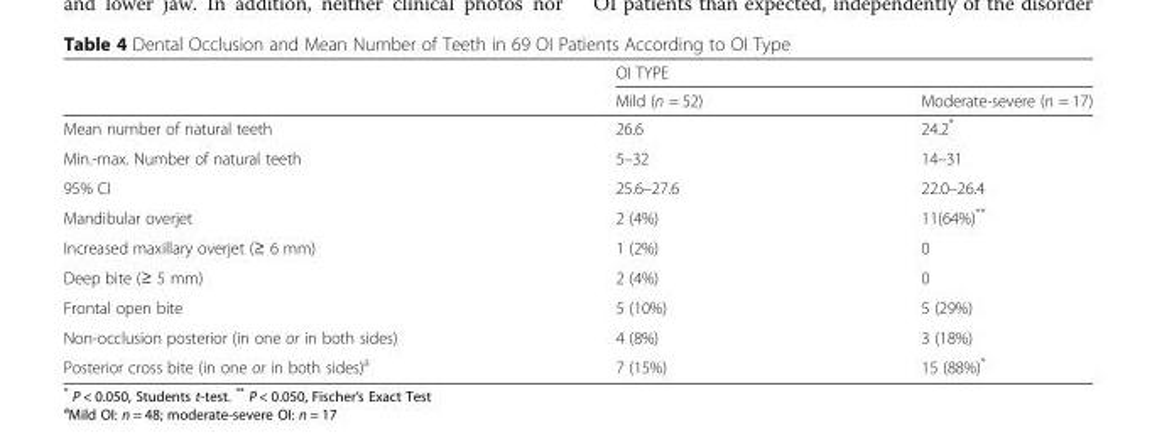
<table><thead><tr><td rowspan="2"></td><td colspan="2">OI TYPE</td></tr><tr><td>Mild (n = 52)</td><td>Moderate-severe (n = 17)</td></tr></thead><tbody><tr><td>Mean number of natural teeth</td><td>26.6</td><td>24.2*</td></tr><tr><td>Min.-max. Number of natural teeth</td><td>5–32</td><td>14–31</td></tr><tr><td>95% CI</td><td>25.6–27.6</td><td>22.0–26.4</td></tr><tr><td>Mandibular overjet</td><td>2 (4%)</td><td>11(64%)**</td></tr><tr><td>Increased maxillary overjet (≥ 6 mm)</td><td>1 (2%)</td><td>0</td></tr><tr><td>Deep bite (≥ 5 mm)</td><td>2 (4%)</td><td>0</td></tr><tr><td>Frontal open bite</td><td>5 (10%)</td><td>5 (29%)</td></tr><tr><td>Non-occlusion posterior (in one or in both sides)</td><td>4 (8%)</td><td>3 (18%)</td></tr><tr><td>Posterior cross bite (in one or in both sides)<sup>a</sup></td><td>7 (15%)</td><td>15 (88%)*</td></tr></tbody></table>